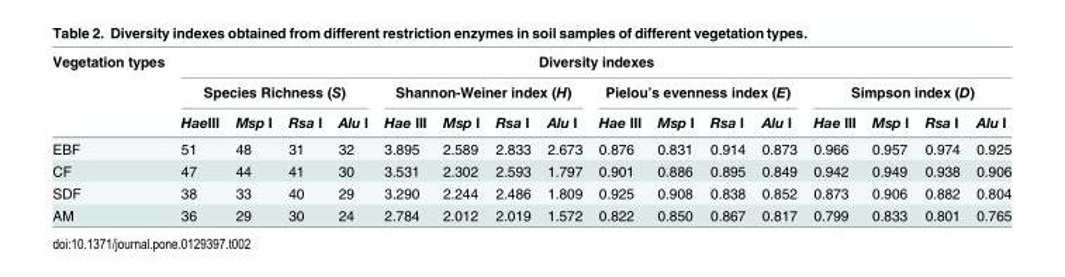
<table><thead><tr><td rowspan="3">Vegetation types</td><td colspan="16">Diversity indexes</td></tr><tr><td colspan="4">Species Richness (S)</td><td colspan="4">Shannon-Weiner index (H)</td><td colspan="4">Pielou’s evenness index (E)</td><td colspan="4">Simpson index (D)</td></tr><tr><td>HaeIII</td><td>Msp I</td><td>Rsa I</td><td>Alu I</td><td>Hae III</td><td>Msp I</td><td>Rsa I</td><td>Alu I</td><td>Hae III</td><td>Msp I</td><td>Rsa I</td><td>Alu I</td><td>Hae III</td><td>Msp I</td><td>Rsa I</td><td>Alu I</td></tr></thead><tbody><tr><td>EBF</td><td>51</td><td>48</td><td>31</td><td>32</td><td>3.895</td><td>2.589</td><td>2.833</td><td>2.673</td><td>0.876</td><td>0.831</td><td>0.914</td><td>0.873</td><td>0.966</td><td>0.957</td><td>0.974</td><td>0.925</td></tr><tr><td>CF</td><td>47</td><td>44</td><td>41</td><td>30</td><td>3.531</td><td>2.302</td><td>2.593</td><td>1.797</td><td>0.901</td><td>0.886</td><td>0.895</td><td>0.849</td><td>0.942</td><td>0.949</td><td>0.938</td><td>0.906</td></tr><tr><td>SDF</td><td>38</td><td>33</td><td>40</td><td>29</td><td>3.290</td><td>2.244</td><td>2.486</td><td>1.809</td><td>0.925</td><td>0.908</td><td>0.838</td><td>0.852</td><td>0.873</td><td>0.906</td><td>0.882</td><td>0.804</td></tr><tr><td>AM</td><td>36</td><td>29</td><td>30</td><td>24</td><td>2.784</td><td>2.012</td><td>2.019</td><td>1.572</td><td>0.822</td><td>0.850</td><td>0.867</td><td>0.817</td><td>0.799</td><td>0.833</td><td>0.801</td><td>0.765</td></tr></tbody></table>